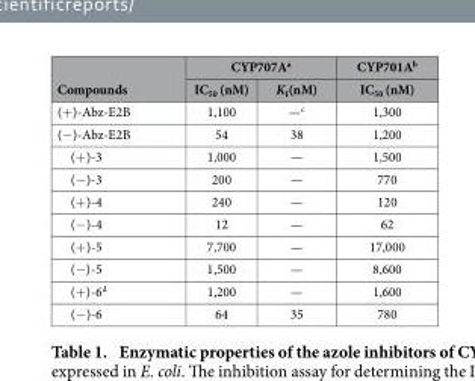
<table><thead><tr><td rowspan="2">Compounds</td><td colspan="2">CYP707A<sup>a</sup></td><td rowspan="2">CYP701A<sup>b</sup> IC<sub>50</sub> (nM)</td></tr><tr><td>IC<sub>50</sub> (nM)</td><td>K<sub>I</sub>(nM)</td></tr></thead><tbody><tr><td>(+ )-Abz-E2B</td><td>1,100</td><td>—c</td><td>1,300</td></tr><tr><td>(− )-Abz-E2B</td><td>54</td><td>38</td><td>1,200</td></tr><tr><td>(+ )-3</td><td>1,000</td><td>—</td><td>1,500</td></tr><tr><td>(− )-3</td><td>200</td><td>—</td><td>770</td></tr><tr><td>(+ )-4</td><td>240</td><td>—</td><td>120</td></tr><tr><td>(− )-4</td><td>12</td><td>—</td><td>62</td></tr><tr><td>(+ )-5</td><td>7,700</td><td>—</td><td>17,000</td></tr><tr><td>(− )-5</td><td>1,500</td><td>—</td><td>8,600</td></tr><tr><td>(+ )-6<sup>d</sup></td><td>1,200</td><td>—</td><td>1,600</td></tr><tr><td>(− )-6</td><td>64</td><td>35</td><td>780</td></tr></tbody></table>